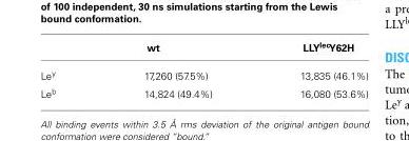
<table><thead><tr><td></td><td>wt</td><td>LLY<sup>lec</sup>Y62H</td></tr></thead><tbody><tr><td>Le<sup>y</sup></td><td>17,260 (57.5%)</td><td>13,835 (46.1%)</td></tr><tr><td>Le<sup>b</sup></td><td>14,824 (49.4%)</td><td>16,080 (53.6%)</td></tr></tbody></table>